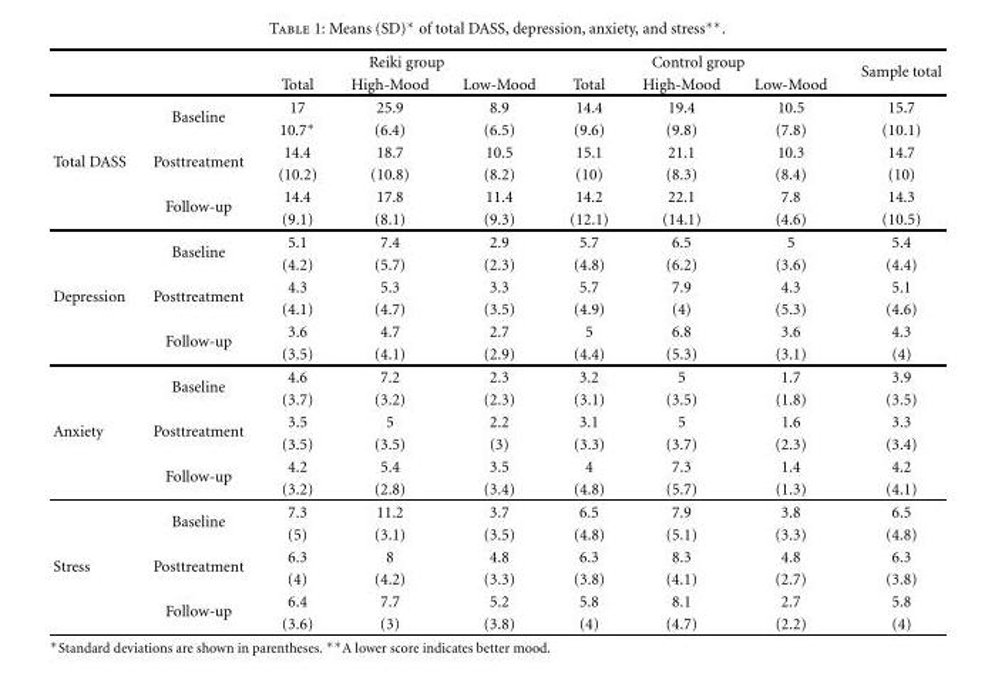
<table><thead><tr><td rowspan="2"></td><td rowspan="2"></td><td colspan="3">Reiki group</td><td colspan="3">Control group</td><td rowspan="2">Sample total</td></tr><tr><td>Total</td><td>High-Mood</td><td>Low-Mood</td><td>Total</td><td>High-Mood</td><td>Low-Mood</td></tr></thead><tbody><tr><td rowspan="6">Total DASS</td><td rowspan="2">Baseline</td><td>17</td><td>25.9</td><td>8.9</td><td>14.4</td><td>19.4</td><td>10.5</td><td>15.7</td></tr><tr><td>10.7∗</td><td>(6.4)</td><td>(6.5)</td><td>(9.6)</td><td>(9.8)</td><td>(7.8)</td><td>(10.1)</td></tr><tr><td rowspan="2">Posttreatment</td><td>14.4</td><td>18.7</td><td>10.5</td><td>15.1</td><td>21.1</td><td>10.3</td><td>14.7</td></tr><tr><td>(10.2)</td><td>(10.8)</td><td>(8.2)</td><td>(10)</td><td>(8.3)</td><td>(8.4)</td><td>(10)</td></tr><tr><td rowspan="2">Follow-up</td><td>14.4</td><td>17.8</td><td>11.4</td><td>14.2</td><td>22.1</td><td>7.8</td><td>14.3</td></tr><tr><td>(9.1)</td><td>(8.1)</td><td>(9.3)</td><td>(12.1)</td><td>(14.1)</td><td>(4.6)</td><td>(10.5)</td></tr><tr><td rowspan="6">Depression</td><td rowspan="2">Baseline</td><td>5.1</td><td>7.4</td><td>2.9</td><td>5.7</td><td>6.5</td><td>5</td><td>5.4</td></tr><tr><td>(4.2)</td><td>(5.7)</td><td>(2.3)</td><td>(4.8)</td><td>(6.2)</td><td>(3.6)</td><td>(4.4)</td></tr><tr><td rowspan="2">Posttreatment</td><td>4.3</td><td>5.3</td><td>3.3</td><td>5.7</td><td>7.9</td><td>4.3</td><td>5.1</td></tr><tr><td>(4.1)</td><td>(4.7)</td><td>(3.5)</td><td>(4.9)</td><td>(4)</td><td>(5.3)</td><td>(4.6)</td></tr><tr><td rowspan="2">Follow-up</td><td>3.6</td><td>4.7</td><td>2.7</td><td>5</td><td>6.8</td><td>3.6</td><td>4.3</td></tr><tr><td>(3.5)</td><td>(4.1)</td><td>(2.9)</td><td>(4.4)</td><td>(5.3)</td><td>(3.1)</td><td>(4)</td></tr><tr><td rowspan="6">Anxiety</td><td rowspan="2">Baseline</td><td>4.6</td><td>7.2</td><td>2.3</td><td>3.2</td><td>5</td><td>1.7</td><td>3.9</td></tr><tr><td>(3.7)</td><td>(3.2)</td><td>(2.3)</td><td>(3.1)</td><td>(3.5)</td><td>(1.8)</td><td>(3.5)</td></tr><tr><td rowspan="2">Posttreatment</td><td>3.5</td><td>5</td><td>2.2</td><td>3.1</td><td>5</td><td>1.6</td><td>3.3</td></tr><tr><td>(3.5)</td><td>(3.5)</td><td>(3)</td><td>(3.3)</td><td>(3.7)</td><td>(2.3)</td><td>(3.4)</td></tr><tr><td rowspan="2">Follow-up</td><td>4.2</td><td>5.4</td><td>3.5</td><td>4</td><td>7.3</td><td>1.4</td><td>4.2</td></tr><tr><td>(3.2)</td><td>(2.8)</td><td>(3.4)</td><td>(4.8)</td><td>(5.7)</td><td>(1.3)</td><td>(4.1)</td></tr><tr><td rowspan="6">Stress</td><td rowspan="2">Baseline</td><td>7.3</td><td>11.2</td><td>3.7</td><td>6.5</td><td>7.9</td><td>3.8</td><td>6.5</td></tr><tr><td>(5)</td><td>(3.1)</td><td>(3.5)</td><td>(4.8)</td><td>(5.1)</td><td>(3.3)</td><td>(4.8)</td></tr><tr><td rowspan="2">Posttreatment</td><td>6.3</td><td>8</td><td>4.8</td><td>6.3</td><td>8.3</td><td>4.8</td><td>6.3</td></tr><tr><td>(4)</td><td>(4.2)</td><td>(3.3)</td><td>(3.8)</td><td>(4.1)</td><td>(2.7)</td><td>(3.8)</td></tr><tr><td rowspan="2">Follow-up</td><td>6.4</td><td>7.7</td><td>5.2</td><td>5.8</td><td>8.1</td><td>2.7</td><td>5.8</td></tr><tr><td>(3.6)</td><td>(3)</td><td>(3.8)</td><td>(4)</td><td>(4.7)</td><td>(2.2)</td><td>(4)</td></tr></tbody></table>